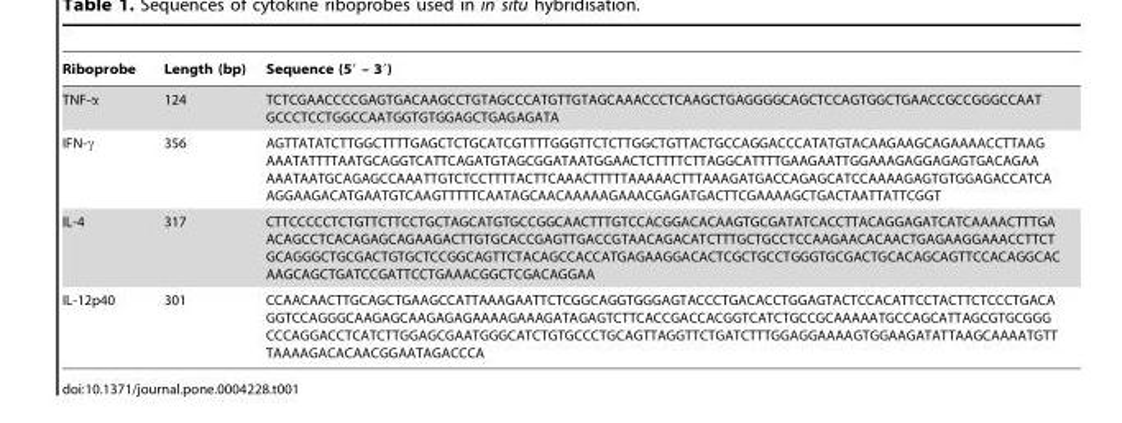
<table><thead><tr><td>Riboprobe</td><td>Length (bp)</td><td>Sequence (5′ – 3′)</td></tr></thead><tbody><tr><td>TNF-α</td><td>124</td><td>TCTCGAACCCCGAGTGACAAGCCTGTAGCCCATGTTGTAGCAAACCCTCAAGCTGAGGGGCAGCTCCAGTGGCTGAACCGCCGGGCCAAT GCCCTCCTGGCCAATGGTGTGGAGCTGAGAGATA</td></tr><tr><td>IFN-γ</td><td>356</td><td>AGTTATATCTTGGCTTTTGAGCTCTGCATCGTTTTGGGTTCTCTTGGCTGTTACTGCCAGGACCCATATGTACAAGAAGCAGAAAACCTTAAG AAATATTTTAATGCAGGTCATTCAGATGTAGCGGATAATGGAACTCTTTTCTTAGGCATTTTGAAGAATTGGAAAGAGGAGAGTGACAGAA AAATAATGCAGAGCCAAATTGTCTCCTTTTACTTCAAACTTTTTAAAAACTTTAAAGATGACCAGAGCATCCAAAAGAGTGTGGAGACCATCA AGGAAGACATGAATGTCAAGTTTTTCAATAGCAACAAAAAGAAACGAGATGACTTCGAAAAGCTGACTAATTATTCGGT</td></tr><tr><td>IL-4</td><td>317</td><td>CTTCCCCCTCTGTTCTTCCTGCTAGCATGTGCCGGCAACTTTGTCCACGGACACAAGTGCGATATCACCTTACAGGAGATCATCAAAACTTTGA ACAGCCTCACAGAGCAGAAGACTTGTGCACCGAGTTGACCGTAACAGACATCTTTGCTGCCTCCAAGAACACAACTGAGAAGGAAACCTTCT GCAGGGCTGCGACTGTGCTCCGGCAGTTCTACAGCCACCATGAGAAGGACACTCGCTGCCTGGGTGCGACTGCACAGCAGTTCCACAGGCAC AAGCAGCTGATCCGATTCCTGAAACGGCTCGACAGGAA</td></tr><tr><td>IL-12p40</td><td>301</td><td>CCAACAACTTGCAGCTGAAGCCATTAAAGAATTCTCGGCAGGTGGGAGTACCCTGACACCTGGAGTACTCCACATTCCTACTTCTCCCTGACA GGTCCAGGGCAAGAGCAAGAGAGAAAAGAAAGATAGAGTCTTCACCGACCACGGTCATCTGCCGCAAAAATGCCAGCATTAGCGTGCGGG CCCAGGACCTCATCTTGGAGCGAATGGGCATCTGTGCCCTGCAGTTAGGTTCTGATCTTTGGAGGAAAAGTGGAAGATATTAAGCAAAATGTT TAAAAGACACAACGGAATAGACCCA</td></tr></tbody></table>